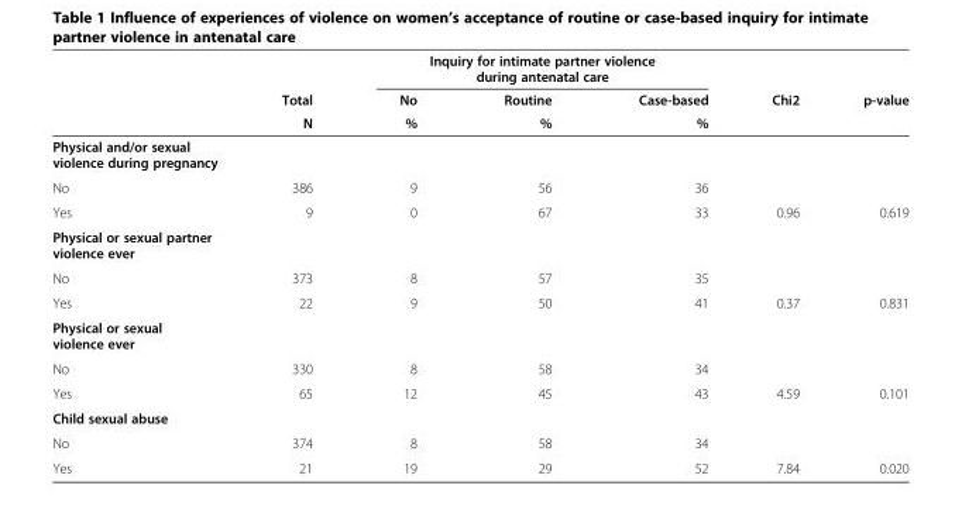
<table><thead><tr><td rowspan="3"></td><td rowspan="3">Total N</td><td colspan="3">Inquiry for intimate partner violence during antenatal care</td><td rowspan="3">Chi2</td><td rowspan="3">p-value</td></tr><tr><td rowspan="2">No %</td><td rowspan="2">Routine %</td><td rowspan="2">Case-based %</td></tr><tr></tr></thead><tbody><tr><td colspan="7">Physical and/or sexual violence during pregnancy</td></tr><tr><td>No</td><td>386</td><td>9</td><td>56</td><td>36</td><td></td><td></td></tr><tr><td>Yes</td><td>9</td><td>0</td><td>67</td><td>33</td><td>0.96</td><td>0.619</td></tr><tr><td colspan="7">Physical or sexual partner violence ever</td></tr><tr><td>No</td><td>373</td><td>8</td><td>57</td><td>35</td><td></td><td></td></tr><tr><td>Yes</td><td>22</td><td>9</td><td>50</td><td>41</td><td>0.37</td><td>0.831</td></tr><tr><td colspan="7">Physical or sexual violence ever</td></tr><tr><td>No</td><td>330</td><td>8</td><td>58</td><td>34</td><td></td><td></td></tr><tr><td>Yes</td><td>65</td><td>12</td><td>45</td><td>43</td><td>4.59</td><td>0.101</td></tr><tr><td colspan="7">Child sexual abuse</td></tr><tr><td>No</td><td>374</td><td>8</td><td>58</td><td>34</td><td></td><td></td></tr><tr><td>Yes</td><td>21</td><td>19</td><td>29</td><td>52</td><td>7.84</td><td>0.020</td></tr></tbody></table>